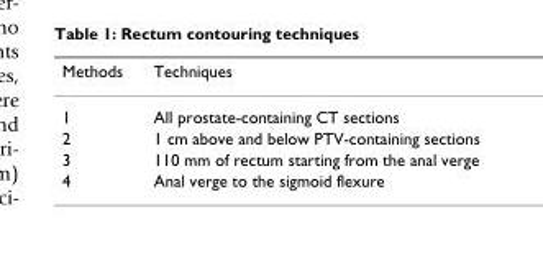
<table><thead><tr><td>Methods</td><td>Techniques</td></tr></thead><tbody><tr><td>1</td><td>All prostate-containing CT sections</td></tr><tr><td>2</td><td>1 cm above and below PTV-containing sections</td></tr><tr><td>3</td><td>110 mm of rectum starting from the anal verge</td></tr><tr><td>4</td><td>Anal verge to the sigmoid flexure</td></tr></tbody></table>